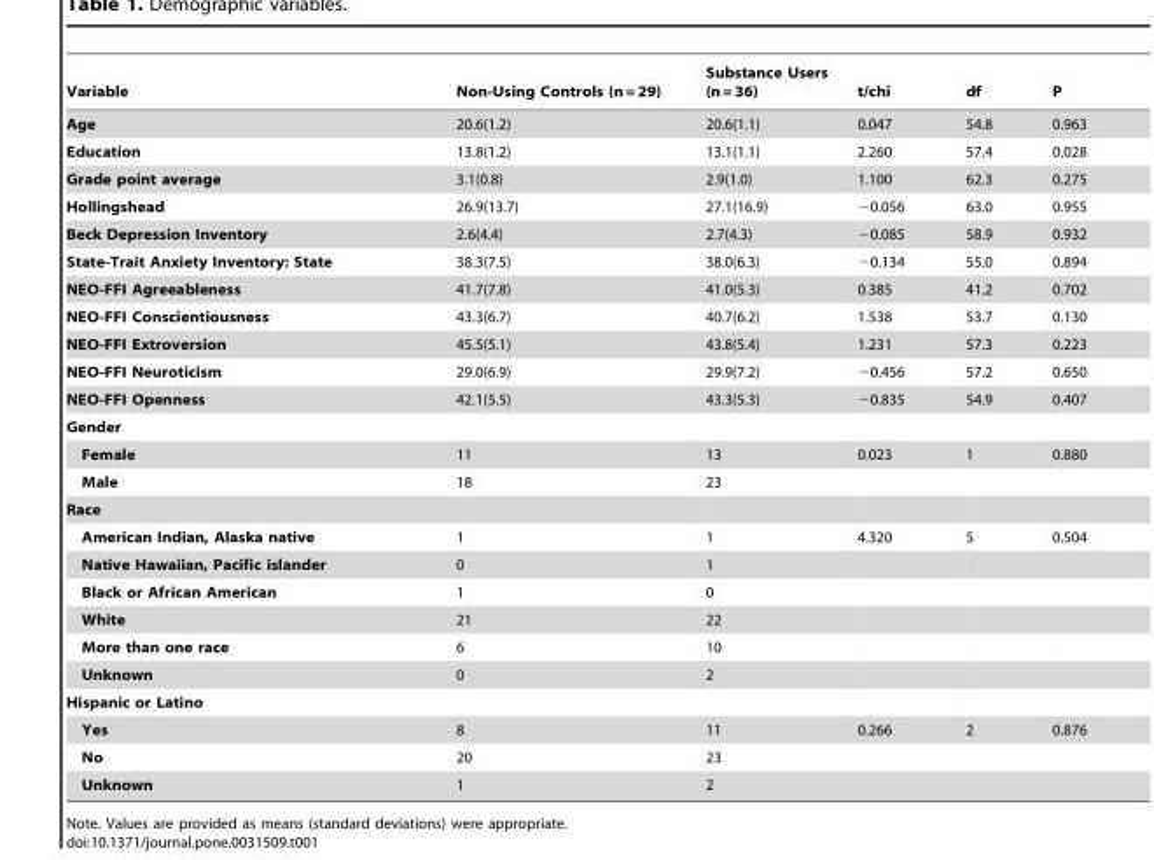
<table><thead><tr><td>Variable</td><td>Non-Using Controls (n = 29)</td><td>Substance Users (n = 36)</td><td>t/chi</td><td>df</td><td>P</td></tr></thead><tbody><tr><td>Age</td><td>20.6(1.2)</td><td>20.6(1.1)</td><td>0.047</td><td>54.8</td><td>0.963</td></tr><tr><td>Education</td><td>13.8(1.2)</td><td>13.1(1.1)</td><td>2.260</td><td>57.4</td><td>0.028</td></tr><tr><td>Grade point average</td><td>3.1(0.8)</td><td>2.9(1.0)</td><td>1.100</td><td>62.3</td><td>0.275</td></tr><tr><td>Hollingshead</td><td>26.9(13.7)</td><td>27.1(16.9)</td><td>−0.056</td><td>63.0</td><td>0.955</td></tr><tr><td>Beck Depression Inventory</td><td>2.6(4.4)</td><td>2.7(4.3)</td><td>−0.085</td><td>58.9</td><td>0.932</td></tr><tr><td>State-Trait Anxiety Inventory: State</td><td>38.3(7.5)</td><td>38.0(6.3)</td><td>−0.134</td><td>55.0</td><td>0.894</td></tr><tr><td>NEO-FFI Agreeableness</td><td>41.7(7.8)</td><td>41.0(5.3)</td><td>0.385</td><td>41.2</td><td>0.702</td></tr><tr><td>NEO-FFI Conscientiousness</td><td>43.3(6.7)</td><td>40.7(6.2)</td><td>1.538</td><td>53.7</td><td>0.130</td></tr><tr><td>NEO-FFI Extroversion</td><td>45.5(5.1)</td><td>43.8(5.4)</td><td>1.231</td><td>57.3</td><td>0.223</td></tr><tr><td>NEO-FFI Neuroticism</td><td>29.0(6.9)</td><td>29.9(7.2)</td><td>−0.456</td><td>57.2</td><td>0.650</td></tr><tr><td>NEO-FFI Openness</td><td>42.1(5.5)</td><td>43.3(5.3)</td><td>−0.835</td><td>54.9</td><td>0.407</td></tr><tr><td colspan="6">Gender</td></tr><tr><td>Female</td><td>11</td><td>13</td><td>0.023</td><td>1</td><td>0.880</td></tr><tr><td>Male</td><td>18</td><td>23</td><td></td><td></td><td></td></tr><tr><td colspan="6">Race</td></tr><tr><td>American Indian, Alaska native</td><td>1</td><td>1</td><td>4.320</td><td>5</td><td>0.504</td></tr><tr><td>Native Hawaiian, Pacific islander</td><td>0</td><td>1</td><td></td><td></td><td></td></tr><tr><td>Black or African American</td><td>1</td><td>0</td><td></td><td></td><td></td></tr><tr><td>White</td><td>21</td><td>22</td><td></td><td></td><td></td></tr><tr><td>More than one race</td><td>6</td><td>10</td><td></td><td></td><td></td></tr><tr><td>Unknown</td><td>0</td><td>2</td><td></td><td></td><td></td></tr><tr><td colspan="6">Hispanic or Latino</td></tr><tr><td>Yes</td><td>8</td><td>11</td><td>0.266</td><td>2</td><td>0.876</td></tr><tr><td>No</td><td>20</td><td>23</td><td></td><td></td><td></td></tr><tr><td>Unknown</td><td>1</td><td>2</td><td></td><td></td><td></td></tr></tbody></table>